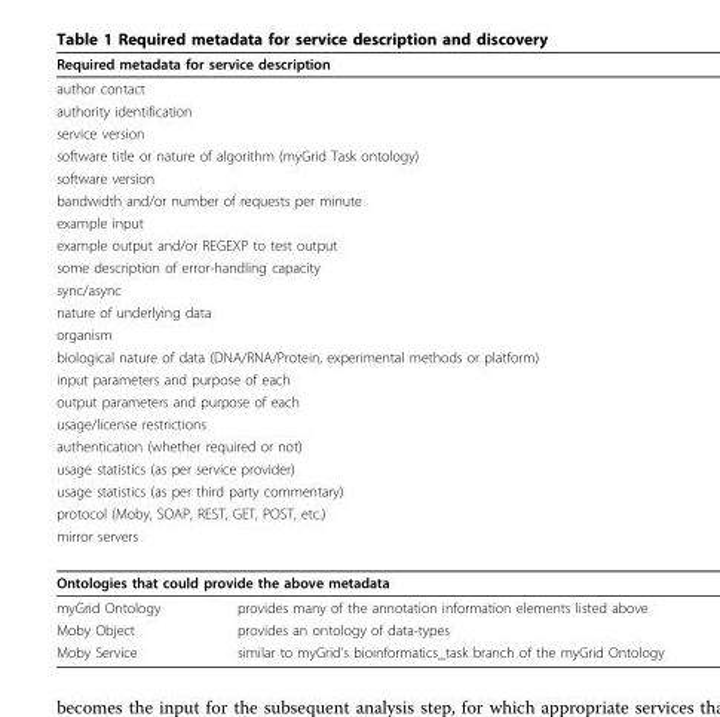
<table><thead><tr><td colspan="2">Required metadata for service description</td></tr></thead><tbody><tr><td colspan="2">author contact</td></tr><tr><td colspan="2">authority identification</td></tr><tr><td colspan="2">service version</td></tr><tr><td colspan="2">software title or nature of algorithm (myGrid Task ontology)</td></tr><tr><td colspan="2">software version</td></tr><tr><td colspan="2">bandwidth and/or number of requests per minute</td></tr><tr><td colspan="2">example input</td></tr><tr><td colspan="2">example output and/or REGEXP to test output</td></tr><tr><td colspan="2">some description of error-handling capacity</td></tr><tr><td colspan="2">sync/async</td></tr><tr><td colspan="2">nature of underlying data</td></tr><tr><td colspan="2">organism</td></tr><tr><td colspan="2">biological nature of data (DNA/RNA/Protein, experimental methods or platform)</td></tr><tr><td colspan="2">input parameters and purpose of each</td></tr><tr><td colspan="2">output parameters and purpose of each</td></tr><tr><td colspan="2">usage/license restrictions</td></tr><tr><td colspan="2">authentication (whether required or not)</td></tr><tr><td colspan="2">usage statistics (as per service provider)</td></tr><tr><td colspan="2">usage statistics (as per third party commentary)</td></tr><tr><td colspan="2">protocol (Moby, SOAP, REST, GET, POST, etc.)</td></tr><tr><td colspan="2">mirror servers</td></tr><tr><td colspan="2">Ontologies that could provide the above metadata</td></tr><tr><td>myGrid Ontology</td><td>provides many of the annotation information elements listed above</td></tr><tr><td>Moby Object</td><td>provides an ontology of data-types</td></tr><tr><td>Moby Service</td><td>similar to myGrid’s bioinformatics_task branch of the myGrid Ontology</td></tr></tbody></table>